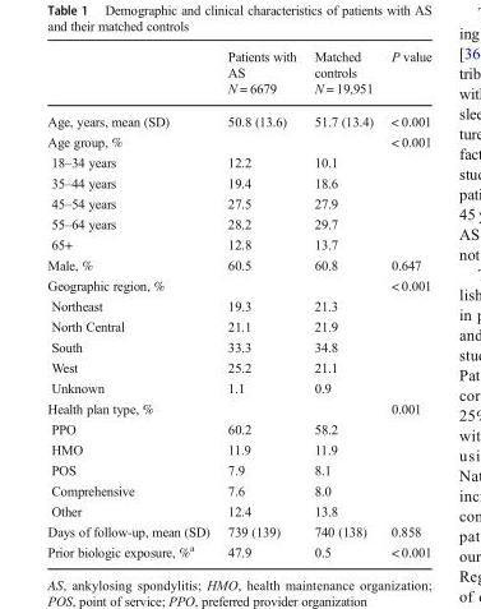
<table><thead><tr><td rowspan="2"></td><td rowspan="2">Patients with AS N = 6679</td><td rowspan="2">Matched controls N = 19,951</td><td rowspan="2">P value</td></tr><tr></tr></thead><tbody><tr><td>Age, years, mean (SD)</td><td>50.8 (13.6)</td><td>51.7 (13.4)</td><td>&lt; 0.001</td></tr><tr><td>Age group, %</td><td></td><td></td><td>&lt; 0.001</td></tr><tr><td>18–34 years</td><td>12.2</td><td>10.1</td><td></td></tr><tr><td>35–44 years</td><td>19.4</td><td>18.6</td><td></td></tr><tr><td>45–54 years</td><td>27.5</td><td>27.9</td><td></td></tr><tr><td>55–64 years</td><td>28.2</td><td>29.7</td><td></td></tr><tr><td>65+</td><td>12.8</td><td>13.7</td><td></td></tr><tr><td>Male, %</td><td>60.5</td><td>60.8</td><td>0.647</td></tr><tr><td>Geographic region, %</td><td></td><td></td><td>&lt; 0.001</td></tr><tr><td>Northeast</td><td>19.3</td><td>21.3</td><td></td></tr><tr><td>North Central</td><td>21.1</td><td>21.9</td><td></td></tr><tr><td>South</td><td>33.3</td><td>34.8</td><td></td></tr><tr><td>West</td><td>25.2</td><td>21.1</td><td></td></tr><tr><td>Unknown</td><td>1.1</td><td>0.9</td><td></td></tr><tr><td>Health plan type, %</td><td></td><td></td><td>0.001</td></tr><tr><td>PPO</td><td>60.2</td><td>58.2</td><td></td></tr><tr><td>HMO</td><td>11.9</td><td>11.9</td><td></td></tr><tr><td>POS</td><td>7.9</td><td>8.1</td><td></td></tr><tr><td>Comprehensive</td><td>7.6</td><td>8.0</td><td></td></tr><tr><td>Other</td><td>12.4</td><td>13.8</td><td></td></tr><tr><td>Days of follow-up, mean (SD)</td><td>739 (139)</td><td>740 (138)</td><td>0.858</td></tr><tr><td>Prior biologic exposure, %<sup>a</sup></td><td>47.9</td><td>0.5</td><td>&lt; 0.001</td></tr></tbody></table>